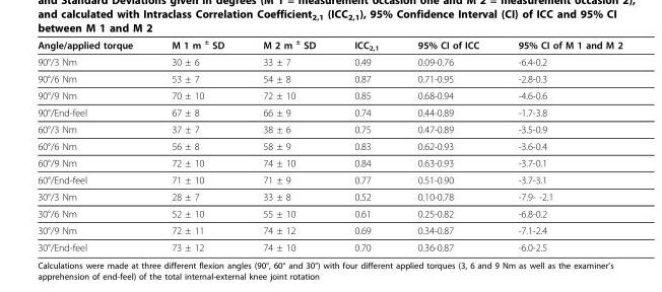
<table><thead><tr><td>Angle/applied torque</td><td>M 1 m <sup>±</sup> SD</td><td>M 2 m <sup>±</sup> SD</td><td>ICC<sub>2,1</sub></td><td>95% CI of ICC</td><td>95% CI of M 1 and M 2</td></tr></thead><tbody><tr><td>90°/3 Nm</td><td>30 ± 6</td><td>33 ± 7</td><td>0.49</td><td>0.09-0.76</td><td>-6.4-0.2</td></tr><tr><td>90°/6 Nm</td><td>53 ± 7</td><td>54 ± 8</td><td>0.87</td><td>0.71-0.95</td><td>-2.8-0.3</td></tr><tr><td>90°/9 Nm</td><td>70 ± 10</td><td>72 ± 10</td><td>0.85</td><td>0.68-0.94</td><td>-4.6-0.6</td></tr><tr><td>90°/End-feel</td><td>67 ± 8</td><td>66 ± 9</td><td>0.74</td><td>0.44-0.89</td><td>-1.7-3.8</td></tr><tr><td>60°/3 Nm</td><td>37 ± 7</td><td>38 ± 6</td><td>0.75</td><td>0.47-0.89</td><td>-3.5-0.9</td></tr><tr><td>60°/6 Nm</td><td>56 ± 8</td><td>58 ± 9</td><td>0.83</td><td>0.62-0.93</td><td>-3.6-0.4</td></tr><tr><td>60°/9 Nm</td><td>72 ± 10</td><td>74 ± 10</td><td>0.84</td><td>0.63-0.93</td><td>-3.7-0.1</td></tr><tr><td>60°/End-feel</td><td>71 ± 10</td><td>71 ± 9</td><td>0.77</td><td>0.51-0.90</td><td>-3.7-3.1</td></tr><tr><td>30°/3 Nm</td><td>28 ± 7</td><td>33 ± 8</td><td>0.52</td><td>0.10-0.78</td><td>-7.9- -2.1</td></tr><tr><td>30°/6 Nm</td><td>52 ± 10</td><td>55 ± 10</td><td>0.61</td><td>0.25-0.82</td><td>-6.8-0.2</td></tr><tr><td>30°/9 Nm</td><td>72 ± 11</td><td>74 ± 12</td><td>0.69</td><td>0.34-0.87</td><td>-7.1-2.4</td></tr><tr><td>30°/End-feel</td><td>73 ± 12</td><td>74 ± 10</td><td>0.70</td><td>0.36-0.87</td><td>-6.0-2.5</td></tr></tbody></table>